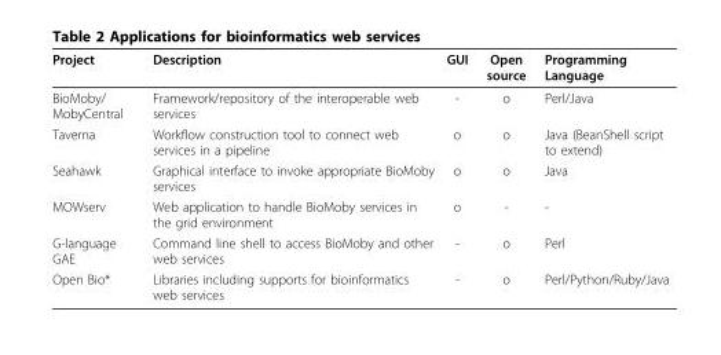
<table><thead><tr><td>Project</td><td>Description</td><td>GUI</td><td>Open source</td><td>Programming Language</td></tr></thead><tbody><tr><td>BioMoby/ MobyCentral</td><td>Framework/repository of the interoperable web services</td><td>-</td><td>o</td><td>Perl/Java</td></tr><tr><td>Taverna</td><td>Workflow construction tool to connect web services in a pipeline</td><td>o</td><td>o</td><td>Java (BeanShell script to extend)</td></tr><tr><td>Seahawk</td><td>Graphical interface to invoke appropriate BioMoby services</td><td>o</td><td>o</td><td>Java</td></tr><tr><td>MOWserv</td><td>Web application to handle BioMoby services in the grid environment</td><td>o</td><td>-</td><td>-</td></tr><tr><td>G-language GAE</td><td>Command line shell to access BioMoby and other web services</td><td>-</td><td>o</td><td>Perl</td></tr><tr><td>Open Bio*</td><td>Libraries including supports for bioinformatics web services</td><td>-</td><td>o</td><td>Perl/Python/Ruby/Java</td></tr></tbody></table>